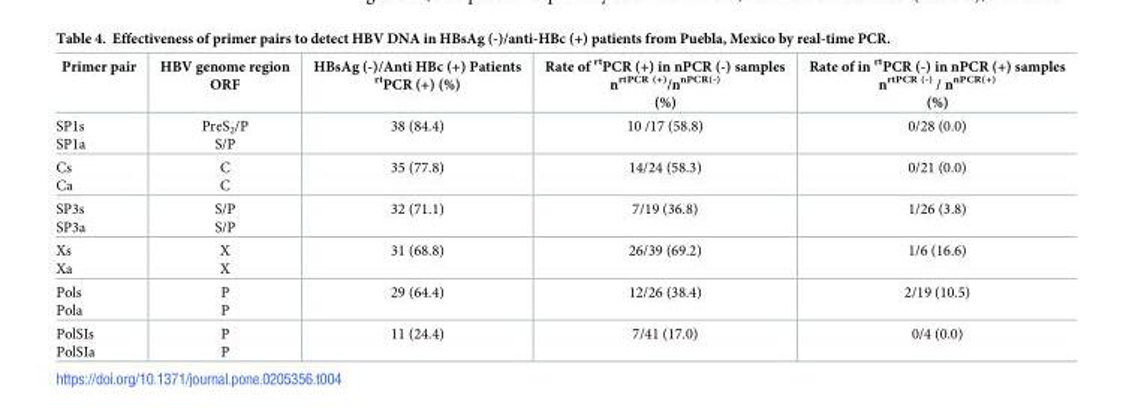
<table><thead><tr><td>Primer pair</td><td>HBV genome region ORF</td><td>HBsAg (-)/Anti HBc (+) Patients <sup>rt</sup>PCR (+) (%)</td><td>Rate of <sup>rt</sup>PCR (+) in nPCR (-) samples n<sup>rtPCR (+)</sup>/n<sup>nPCR(-)</sup> (%)</td><td>Rate of in <sup>rt</sup>PCR (-) in nPCR (+) samples n<sup>rtPCR (-)</sup> / n<sup>nPCR(+)</sup> (%)</td></tr></thead><tbody><tr><td>SP1s SP1a</td><td>PreS<sub>2</sub>/P S/P</td><td>38 (84.4)</td><td>10 /17 (58.8)</td><td>0/28 (0.0)</td></tr><tr><td>Cs Ca</td><td>C C</td><td>35 (77.8)</td><td>14/24 (58.3)</td><td>0/21 (0.0)</td></tr><tr><td>SP3s SP3a</td><td>S/P S/P</td><td>32 (71.1)</td><td>7/19 (36.8)</td><td>1/26 (3.8)</td></tr><tr><td>Xs Xa</td><td>X X</td><td>31 (68.8)</td><td>26/39 (69.2)</td><td>1/6 (16.6)</td></tr><tr><td>Pols Pola</td><td>P P</td><td>29 (64.4)</td><td>12/26 (38.4)</td><td>2/19 (10.5)</td></tr><tr><td>PolSIs PolSIa</td><td>P P</td><td>11 (24.4)</td><td>7/41 (17.0)</td><td>0/4 (0.0)</td></tr></tbody></table>